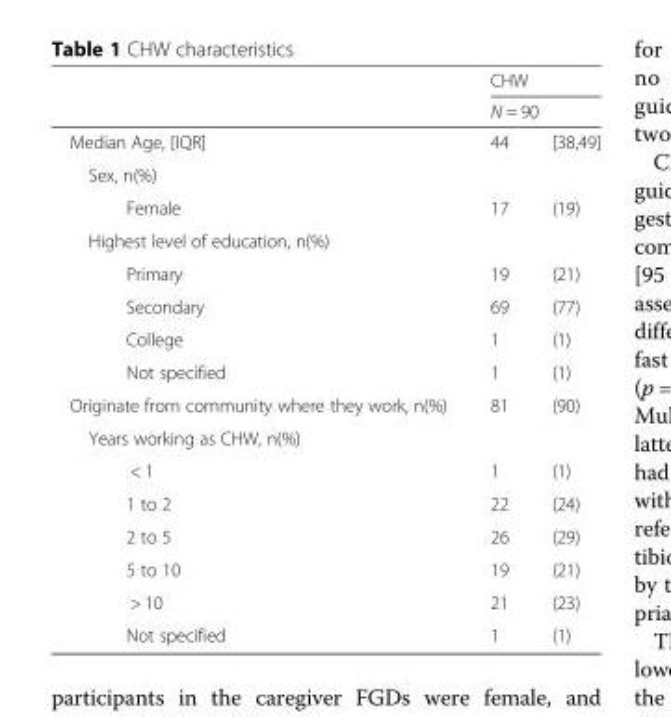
<table><thead><tr><td rowspan="3">Median Age, [IQR]</td><td rowspan="2" colspan="2">CHW N = 90</td></tr><tr></tr><tr><td>44</td><td>[38,49]</td></tr></thead><tbody><tr><td colspan="3">Sex, n(%)</td></tr><tr><td>Female</td><td>17</td><td>(19)</td></tr><tr><td colspan="3">Highest level of education, n(%)</td></tr><tr><td>Primary</td><td>19</td><td>(21)</td></tr><tr><td>Secondary</td><td>69</td><td>(77)</td></tr><tr><td>College</td><td>1</td><td>(1)</td></tr><tr><td>Not specified</td><td>1</td><td>(1)</td></tr><tr><td>Originate from community where they work, n(%)</td><td>81</td><td>(90)</td></tr><tr><td colspan="3">Years working as CHW, n(%)</td></tr><tr><td>&lt; 1</td><td>1</td><td>(1)</td></tr><tr><td>1 to 2</td><td>22</td><td>(24)</td></tr><tr><td>2 to 5</td><td>26</td><td>(29)</td></tr><tr><td>5 to 10</td><td>19</td><td>(21)</td></tr><tr><td>&gt; 10</td><td>21</td><td>(23)</td></tr><tr><td>Not specified</td><td>1</td><td>(1)</td></tr></tbody></table>